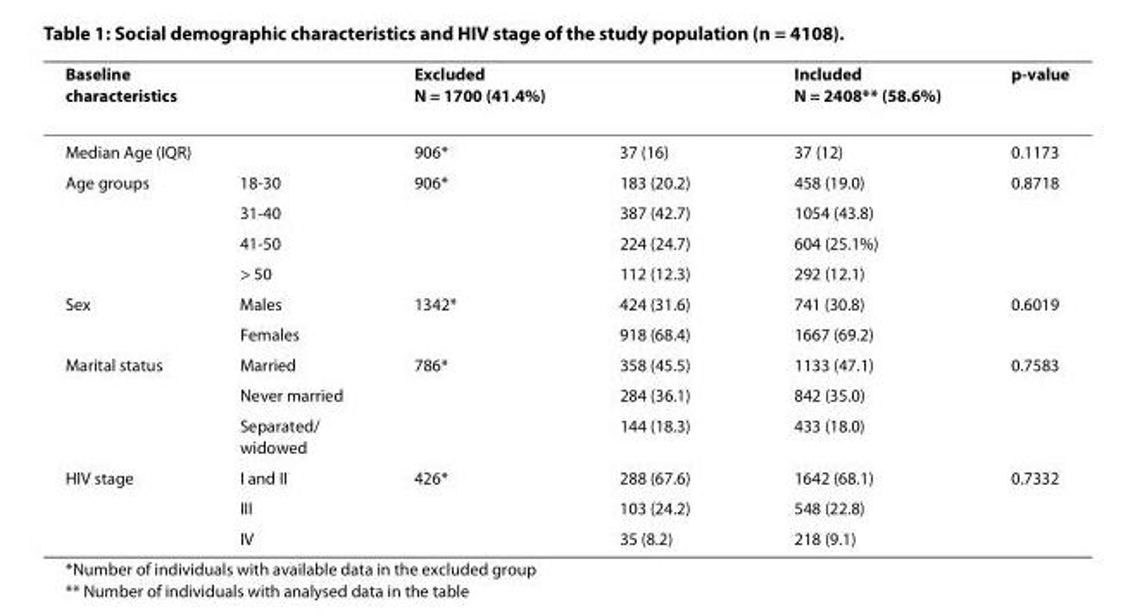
<table><thead><tr><td>Baseline characteristics</td><td></td><td>Excluded N = 1700 (41.4%)</td><td></td><td>Included N = 2408** (58.6%)</td><td>p-value</td></tr></thead><tbody><tr><td>Median Age (IQR)</td><td></td><td>906*</td><td>37 (16)</td><td>37 (12)</td><td>0.1173</td></tr><tr><td rowspan="4">Age groups</td><td>18-30</td><td>906*</td><td>183 (20.2)</td><td>458 (19.0)</td><td>0.8718</td></tr><tr><td>31-40</td><td></td><td>387 (42.7)</td><td>1054 (43.8)</td><td></td></tr><tr><td>41-50</td><td></td><td>224 (24.7)</td><td>604 (25.1%)</td><td></td></tr><tr><td>&gt; 50</td><td></td><td>112 (12.3)</td><td>292 (12.1)</td><td></td></tr><tr><td rowspan="2">Sex</td><td>Males</td><td>1342*</td><td>424 (31.6)</td><td>741 (30.8)</td><td>0.6019</td></tr><tr><td>Females</td><td></td><td>918 (68.4)</td><td>1667 (69.2)</td><td></td></tr><tr><td rowspan="3">Marital status</td><td>Married</td><td>786*</td><td>358 (45.5)</td><td>1133 (47.1)</td><td>0.7583</td></tr><tr><td>Never married</td><td></td><td>284 (36.1)</td><td>842 (35.0)</td><td></td></tr><tr><td>Separated/ widowed</td><td></td><td>144 (18.3)</td><td>433 (18.0)</td><td></td></tr><tr><td rowspan="3">HIV stage</td><td>I and II</td><td>426*</td><td>288 (67.6)</td><td>1642 (68.1)</td><td>0.7332</td></tr><tr><td>III</td><td></td><td>103 (24.2)</td><td>548 (22.8)</td><td></td></tr><tr><td>IV</td><td></td><td>35 (8.2)</td><td>218 (9.1)</td><td></td></tr></tbody></table>